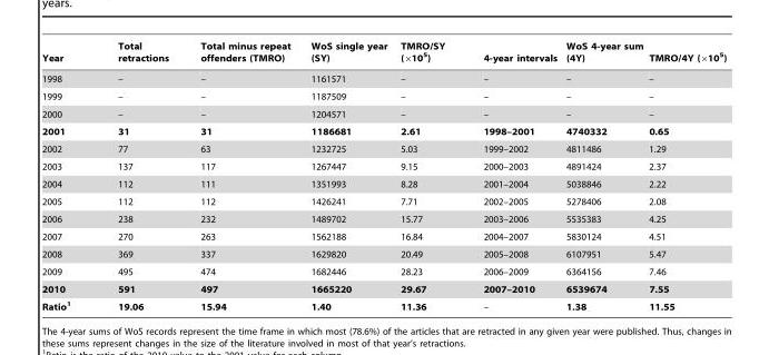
<table><thead><tr><td>Year</td><td>Total retractions</td><td>Total minus repeat offenders (TMRO)</td><td>WoS single year (SY)</td><td>TMRO/SY (×10<sup>5</sup>)</td><td>4-year intervals</td><td>WoS 4-year sum (4Y)</td><td>TMRO/4Y (×10<sup>5</sup>)</td></tr></thead><tbody><tr><td>1998</td><td>–</td><td>–</td><td>1161571</td><td>–</td><td>–</td><td>–</td><td>–</td></tr><tr><td>1999</td><td>–</td><td>–</td><td>1187509</td><td>–</td><td>–</td><td>–</td><td>–</td></tr><tr><td>2000</td><td>–</td><td>–</td><td>1204571</td><td>–</td><td>–</td><td>–</td><td>–</td></tr><tr><td>2001</td><td>31</td><td>31</td><td>1186681</td><td>2.61</td><td>1998–2001</td><td>4740332</td><td>0.65</td></tr><tr><td>2002</td><td>77</td><td>63</td><td>1232725</td><td>5.03</td><td>1999–2002</td><td>4811486</td><td>1.29</td></tr><tr><td>2003</td><td>137</td><td>117</td><td>1267447</td><td>9.15</td><td>2000–2003</td><td>4891424</td><td>2.37</td></tr><tr><td>2004</td><td>112</td><td>111</td><td>1351993</td><td>8.28</td><td>2001–2004</td><td>5038846</td><td>2.22</td></tr><tr><td>2005</td><td>112</td><td>112</td><td>1426241</td><td>7.71</td><td>2002–2005</td><td>5278406</td><td>2.08</td></tr><tr><td>2006</td><td>238</td><td>232</td><td>1489702</td><td>15.77</td><td>2003–2006</td><td>5535383</td><td>4.25</td></tr><tr><td>2007</td><td>270</td><td>263</td><td>1562188</td><td>16.84</td><td>2004–2007</td><td>5830124</td><td>4.51</td></tr><tr><td>2008</td><td>369</td><td>337</td><td>1629820</td><td>20.49</td><td>2005–2008</td><td>6107951</td><td>5.47</td></tr><tr><td>2009</td><td>495</td><td>474</td><td>1682446</td><td>28.23</td><td>2006–2009</td><td>6364156</td><td>7.46</td></tr><tr><td>2010</td><td>591</td><td>497</td><td>1665220</td><td>29.67</td><td>2007–2010</td><td>6539674</td><td>7.55</td></tr><tr><td>Ratio1</td><td>19.06</td><td>15.94</td><td>1.40</td><td>11.36</td><td>–</td><td>1.38</td><td>11.55</td></tr></tbody></table>